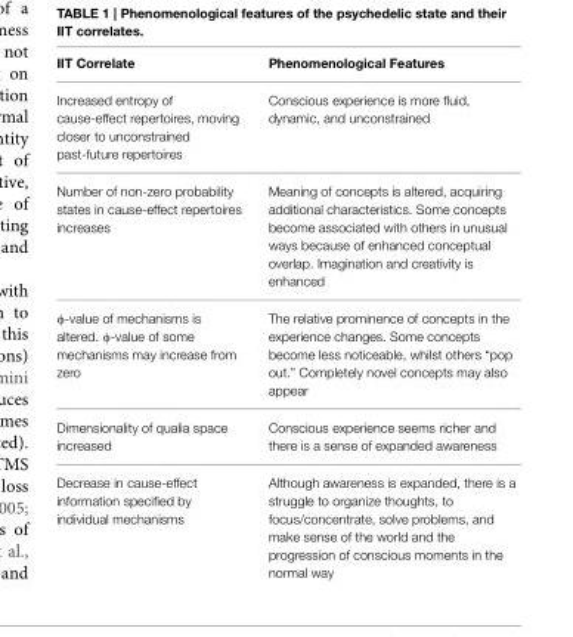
<table><thead><tr><td>IIT Correlate</td><td>Phenomenological Features</td></tr></thead><tbody><tr><td>Increased entropy of cause-effect repertoires, moving closer to unconstrained past-future repertoires</td><td>Conscious experience is more fluid, dynamic, and unconstrained</td></tr><tr><td>Number of non-zero probability states in cause-effect repertoires increases</td><td>Meaning of concepts is altered, acquiring additional characteristics. Some concepts become associated with others in unusual ways because of enhanced conceptual overlap. Imagination and creativity is enhanced</td></tr><tr><td>φ-value of mechanisms is altered. φ-value of some mechanisms may increase from zero</td><td>The relative prominence of concepts in the experience changes. Some concepts become less noticeable, whilst others “pop out.” Completely novel concepts may also appear</td></tr><tr><td>Dimensionality of qualia space increased</td><td>Conscious experience seems richer and there is a sense of expanded awareness</td></tr><tr><td>Decrease in cause-effect information specified by individual mechanisms</td><td>Although awareness is expanded, there is a struggle to organize thoughts, to focus/concentrate, solve problems, and make sense of the world and the progression of conscious moments in the normal way</td></tr></tbody></table>